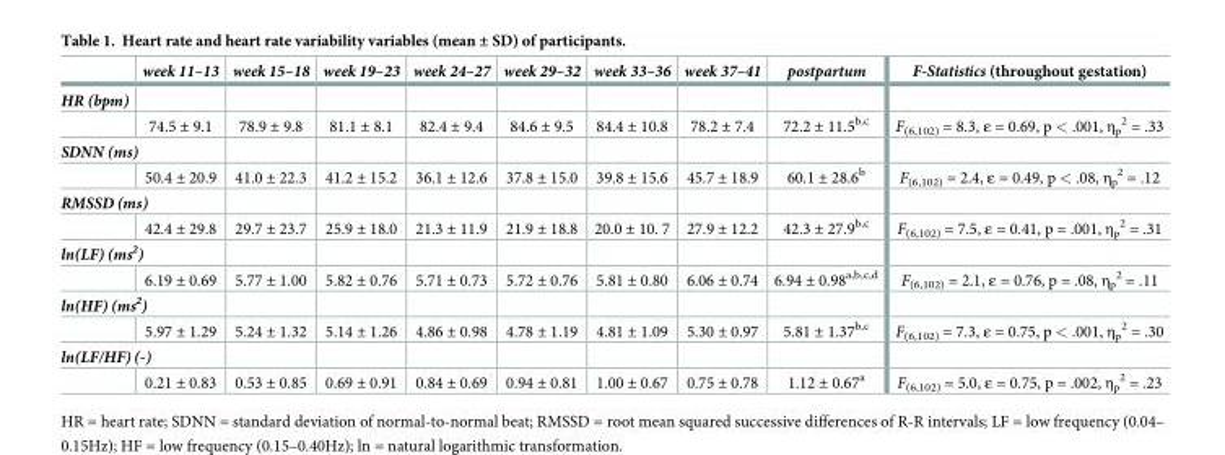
<table><thead><tr><td></td><td>week 11–13</td><td>week 15–18</td><td>week 19–23</td><td>week 24–27</td><td>week 29–32</td><td>week 33–36</td><td>week 37–41</td><td>postpartum</td><td>F-Statistics (throughout gestation)</td></tr></thead><tbody><tr><td colspan="10">HR (bpm)</td></tr><tr><td></td><td>74.5 ± 9.1</td><td>78.9 ± 9.8</td><td>81.1 ± 8.1</td><td>82.4 ± 9.4</td><td>84.6 ± 9.5</td><td>84.4 ± 10.8</td><td>78.2 ± 7.4</td><td>72.2 ± 11.5<sup>b,c</sup></td><td>F<sub>(6,102)</sub> = 8.3, ε = 0.69, p &lt; .001, η<sub>p</sub> <sup>2</sup> = .33</td></tr><tr><td colspan="10">SDNN (ms)</td></tr><tr><td></td><td>50.4 ± 20.9</td><td>41.0 ± 22.3</td><td>41.2 ± 15.2</td><td>36.1 ± 12.6</td><td>37.8 ± 15.0</td><td>39.8 ± 15.6</td><td>45.7 ± 18.9</td><td>60.1 ± 28.6<sup>b</sup></td><td>F<sub>(6,102)</sub> = 2.4, ε = 0.49, p &lt; .08, η<sub>p</sub> <sup>2</sup> = .12</td></tr><tr><td colspan="10">RMSSD (ms)</td></tr><tr><td></td><td>42.4 ± 29.8</td><td>29.7 ± 23.7</td><td>25.9 ± 18.0</td><td>21.3 ± 11.9</td><td>21.9 ± 18.8</td><td>20.0 ± 10. 7</td><td>27.9 ± 12.2</td><td>42.3 ± 27.9<sup>b,c</sup></td><td>F<sub>(6,102)</sub> = 7.5, ε = 0.41, p = .001, η<sub>p</sub> <sup>2</sup> = .31</td></tr><tr><td colspan="10">ln(LF) (ms<sup>2</sup>)</td></tr><tr><td></td><td>6.19 ± 0.69</td><td>5.77 ± 1.00</td><td>5.82 ± 0.76</td><td>5.71 ± 0.73</td><td>5.72 ± 0.76</td><td>5.81 ± 0.80</td><td>6.06 ± 0.74</td><td>6.94 ± 0.98<sup>a,b,c,d</sup></td><td>F<sub>(6,102)</sub> = 2.1, ε = 0.76, p = .08, η<sub>p</sub> <sup>2</sup> = .11</td></tr><tr><td colspan="10">ln(HF) (ms<sup>2</sup>)</td></tr><tr><td></td><td>5.97 ± 1.29</td><td>5.24 ± 1.32</td><td>5.14 ± 1.26</td><td>4.86 ± 0.98</td><td>4.78 ± 1.19</td><td>4.81 ± 1.09</td><td>5.30 ± 0.97</td><td>5.81 ± 1.37<sup>b,c</sup></td><td>F<sub>(6,102)</sub> = 7.3, ε = 0.75, p &lt; .001, η<sub>p</sub> <sup>2</sup> = .30</td></tr><tr><td colspan="10">ln(LF/HF) (-)</td></tr><tr><td></td><td>0.21 ± 0.83</td><td>0.53 ± 0.85</td><td>0.69 ± 0.91</td><td>0.84 ± 0.69</td><td>0.94 ± 0.81</td><td>1.00 ± 0.67</td><td>0.75 ± 0.78</td><td>1.12 ± 0.67<sup>a</sup></td><td>F<sub>(6,102)</sub> = 5.0, ε = 0.75, p = .002, η<sub>p</sub> <sup>2</sup> = .23</td></tr></tbody></table>